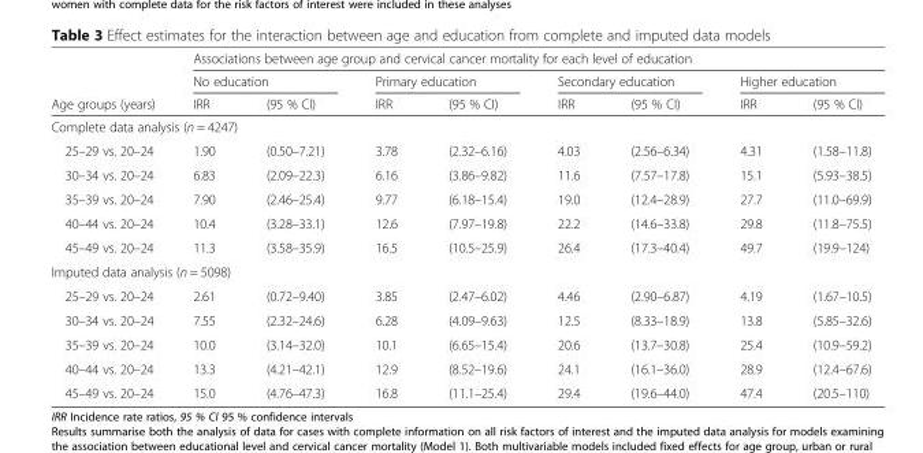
<table><thead><tr><td rowspan="3">Age groups (years)</td><td colspan="8">Associations between age group and cervical cancer mortality for each level of education</td></tr><tr><td colspan="2">No education</td><td colspan="2">Primary education</td><td colspan="2">Secondary education</td><td colspan="2">Higher education</td></tr><tr><td>IRR</td><td>(95 % CI)</td><td>IRR</td><td>(95 % CI)</td><td>IRR</td><td>(95 % CI)</td><td>IRR</td><td>(95 % CI)</td></tr></thead><tbody><tr><td colspan="9">Complete data analysis (n = 4247)</td></tr><tr><td>25–29 vs. 20–24</td><td>1.90</td><td>(0.50–7.21)</td><td>3.78</td><td>(2.32–6.16)</td><td>4.03</td><td>(2.56–6.34)</td><td>4.31</td><td>(1.58–11.8)</td></tr><tr><td>30–34 vs. 20–24</td><td>6.83</td><td>(2.09–22.3)</td><td>6.16</td><td>(3.86–9.82)</td><td>11.6</td><td>(7.57–17.8)</td><td>15.1</td><td>(5.93–38.5)</td></tr><tr><td>35–39 vs. 20–24</td><td>7.90</td><td>(2.46–25.4)</td><td>9.77</td><td>(6.18–15.4)</td><td>19.0</td><td>(12.4–28.9)</td><td>27.7</td><td>(11.0–69.9)</td></tr><tr><td>40–44 vs. 20–24</td><td>10.4</td><td>(3.28–33.1)</td><td>12.6</td><td>(7.97–19.8)</td><td>22.2</td><td>(14.6–33.8)</td><td>29.8</td><td>(11.8–75.5)</td></tr><tr><td>45–49 vs. 20–24</td><td>11.3</td><td>(3.58–35.9)</td><td>16.5</td><td>(10.5–25.9)</td><td>26.4</td><td>(17.3–40.4)</td><td>49.7</td><td>(19.9–124)</td></tr><tr><td colspan="9">Imputed data analysis (n = 5098)</td></tr><tr><td>25–29 vs. 20–24</td><td>2.61</td><td>(0.72–9.40)</td><td>3.85</td><td>(2.47–6.02)</td><td>4.46</td><td>(2.90–6.87)</td><td>4.19</td><td>(1.67–10.5)</td></tr><tr><td>30–34 vs. 20–24</td><td>7.55</td><td>(2.32–24.6)</td><td>6.28</td><td>(4.09–9.63)</td><td>12.5</td><td>(8.33–18.9)</td><td>13.8</td><td>(5.85–32.6)</td></tr><tr><td>35–39 vs. 20–24</td><td>10.0</td><td>(3.14–32.0)</td><td>10.1</td><td>(6.65–15.4)</td><td>20.6</td><td>(13.7–30.8)</td><td>25.4</td><td>(10.9–59.2)</td></tr><tr><td>40–44 vs. 20–24</td><td>13.3</td><td>(4.21–42.1)</td><td>12.9</td><td>(8.52–19.6)</td><td>24.1</td><td>(16.1–36.0)</td><td>28.9</td><td>(12.4–67.6)</td></tr><tr><td>45–49 vs. 20–24</td><td>15.0</td><td>(4.76–47.3)</td><td>16.8</td><td>(11.1–25.4)</td><td>29.4</td><td>(19.6–44.0)</td><td>47.4</td><td>(20.5–110)</td></tr></tbody></table>